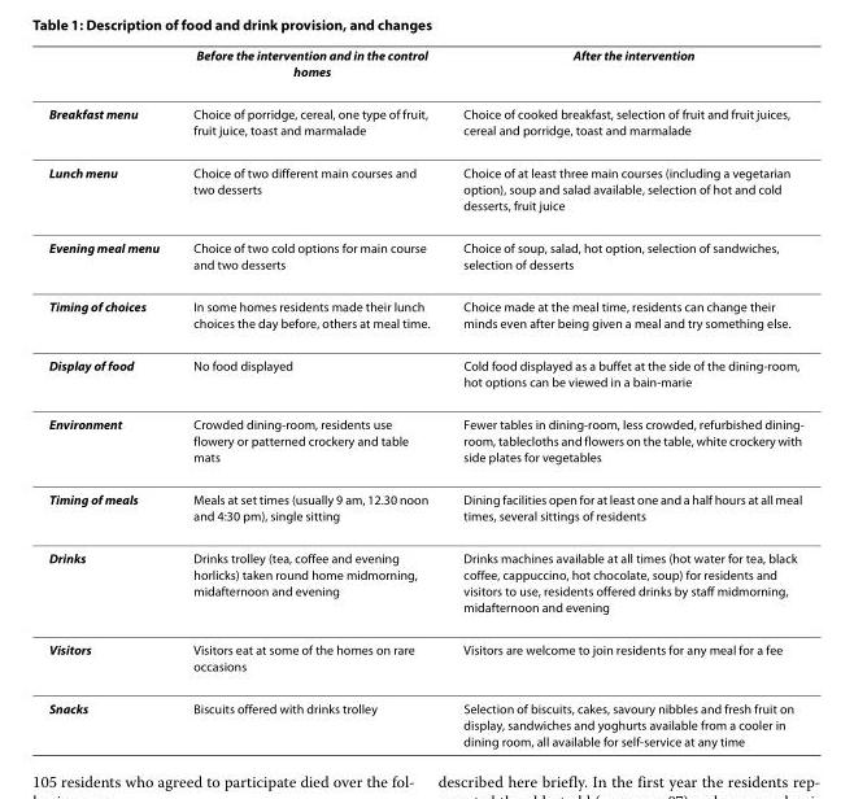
<table><thead><tr><td></td><td>Before the intervention and in the control homes</td><td>After the intervention</td></tr></thead><tbody><tr><td>Breakfast menu</td><td>Choice of porridge, cereal, one type of fruit, fruit juice, toast and marmalade</td><td>Choice of cooked breakfast, selection of fruit and fruit juices, cereal and porridge, toast and marmalade</td></tr><tr><td>Lunch menu</td><td>Choice of two different main courses and two desserts</td><td>Choice of at least three main courses (including a vegetarian option), soup and salad available, selection of hot and cold desserts, fruit juice</td></tr><tr><td>Evening meal menu</td><td>Choice of two cold options for main course and two desserts</td><td>Choice of soup, salad, hot option, selection of sandwiches, selection of desserts</td></tr><tr><td>Timing of choices</td><td>In some homes residents made their lunch choices the day before, others at meal time.</td><td>Choice made at the meal time, residents can change their minds even after being given a meal and try something else.</td></tr><tr><td>Display of food</td><td>No food displayed</td><td>Cold food displayed as a buffet at the side of the dining-room, hot options can be viewed in a bain-marie</td></tr><tr><td>Environment</td><td>Crowded dining-room, residents use flowery or patterned crockery and table mats</td><td>Fewer tables in dining-room, less crowded, refurbished dining- room, tablecloths and flowers on the table, white crockery with side plates for vegetables</td></tr><tr><td>Timing of meals</td><td>Meals at set times (usually 9 am, 12.30 noon and 4:30 pm), single sitting</td><td>Dining facilities open for at least one and a half hours at all meal times, several sittings of residents</td></tr><tr><td>Drinks</td><td>Drinks trolley (tea, coffee and evening horlicks) taken round home midmorning, midafternoon and evening</td><td>Drinks machines available at all times (hot water for tea, black coffee, cappuccino, hot chocolate, soup) for residents and visitors to use, residents offered drinks by staff midmorning, midafternoon and evening</td></tr><tr><td>Visitors</td><td>Visitors eat at some of the homes on rare occasions</td><td>Visitors are welcome to join residents for any meal for a fee</td></tr><tr><td>Snacks</td><td>Biscuits offered with drinks trolley</td><td>Selection of biscuits, cakes, savoury nibbles and fresh fruit on display, sandwiches and yoghurts available from a cooler in dining room, all available for self-service at any time</td></tr></tbody></table>